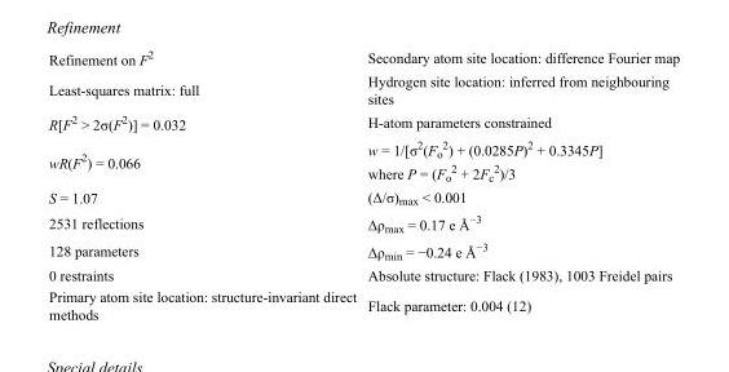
<table><tbody><tr><td>Refinement on F<sup>2</sup></td><td>Secondary atom site location: difference Fourier map</td></tr><tr><td>Least-squares matrix: full</td><td>Hydrogen site location: inferred from neighbouring sites</td></tr><tr><td>R[F<sup>2</sup> &gt; 2σ(F<sup>2</sup>)] = 0.032</td><td>H-atom parameters constrained</td></tr><tr><td>wR(F<sup>2</sup>) = 0.066</td><td>w = 1/[σ<sup>2</sup>(F<sub>o</sub> <sup>2</sup>) + (0.0285P)<sup>2</sup> + 0.3345P] where P = (F<sub>o</sub> <sup>2</sup> + 2F<sub>c</sub> <sup>2</sup>)/3</td></tr><tr><td>S = 1.07</td><td>(Δ/σ)<sub>max</sub> &lt; 0.001</td></tr><tr><td>2531 reflections</td><td>Δρ<sub>max</sub> = 0.17 e Å<sup>−3</sup></td></tr><tr><td>128 parameters</td><td>Δρ<sub>min</sub> = −0.24 e Å<sup>−3</sup></td></tr><tr><td>0 restraints</td><td>Absolute structure: Flack (1983), 1003 Freidel pairs</td></tr><tr><td>Primary atom site location: structure-invariant direct methods</td><td>Flack parameter: 0.004 (12)</td></tr></tbody></table>